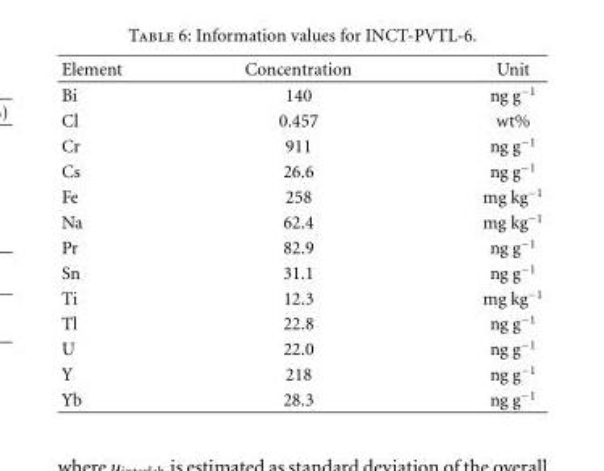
<table><thead><tr><td>Element</td><td>Concentration</td><td>Unit</td></tr></thead><tbody><tr><td>Bi</td><td>140</td><td>ng g<sup>−1</sup></td></tr><tr><td>Cl</td><td>0.457</td><td>wt%</td></tr><tr><td>Cr</td><td>911</td><td>ng g<sup>−1</sup></td></tr><tr><td>Cs</td><td>26.6</td><td>ng g<sup>−1</sup></td></tr><tr><td>Fe</td><td>258</td><td>mg kg<sup>−1</sup></td></tr><tr><td>Na</td><td>62.4</td><td>mg kg<sup>−1</sup></td></tr><tr><td>Pr</td><td>82.9</td><td>ng g<sup>−1</sup></td></tr><tr><td>Sn</td><td>31.1</td><td>ng g<sup>−1</sup></td></tr><tr><td>Ti</td><td>12.3</td><td>mg kg<sup>−1</sup></td></tr><tr><td>Tl</td><td>22.8</td><td>ng g<sup>−1</sup></td></tr><tr><td>U</td><td>22.0</td><td>ng g<sup>−1</sup></td></tr><tr><td>Y</td><td>218</td><td>ng g<sup>−1</sup></td></tr><tr><td>Yb</td><td>28.3</td><td>ng g<sup>−1</sup></td></tr></tbody></table>